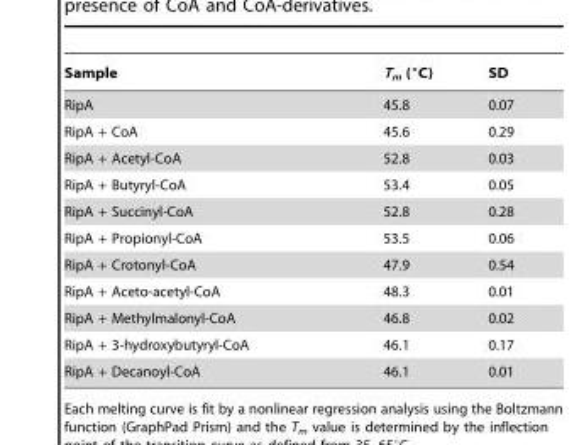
<table><thead><tr><td>Sample</td><td>T<sub>m</sub> (°C)</td><td>SD</td></tr></thead><tbody><tr><td>RipA</td><td>45.8</td><td>0.07</td></tr><tr><td>RipA + CoA</td><td>45.6</td><td>0.29</td></tr><tr><td>RipA + Acetyl-CoA</td><td>52.8</td><td>0.03</td></tr><tr><td>RipA + Butyryl-CoA</td><td>53.4</td><td>0.05</td></tr><tr><td>RipA + Succinyl-CoA</td><td>52.8</td><td>0.28</td></tr><tr><td>RipA + Propionyl-CoA</td><td>53.5</td><td>0.06</td></tr><tr><td>RipA + Crotonyl-CoA</td><td>47.9</td><td>0.54</td></tr><tr><td>RipA + Aceto-acetyl-CoA</td><td>48.3</td><td>0.01</td></tr><tr><td>RipA + Methylmalonyl-CoA</td><td>46.8</td><td>0.02</td></tr><tr><td>RipA + 3-hydroxybutyryl-CoA</td><td>46.1</td><td>0.17</td></tr><tr><td>RipA + Decanoyl-CoA</td><td>46.1</td><td>0.01</td></tr></tbody></table>